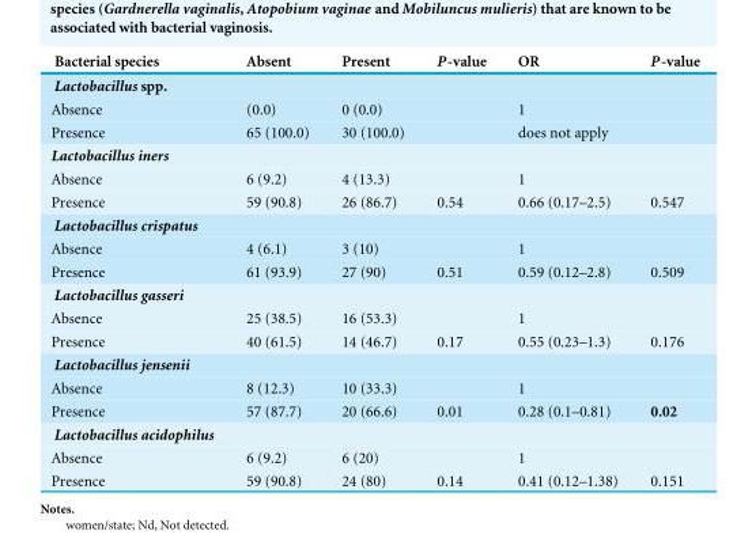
<table><thead><tr><td>Bacterial species</td><td>Absent</td><td>Present</td><td>P-value</td><td>OR</td><td>P-value</td></tr></thead><tbody><tr><td colspan="6">Lactobacillus spp.</td></tr><tr><td>Absence</td><td>(0.0)</td><td>0 (0.0)</td><td></td><td>1</td><td></td></tr><tr><td>Presence</td><td>65 (100.0)</td><td>30 (100.0)</td><td></td><td>does not apply</td><td></td></tr><tr><td colspan="6">Lactobacillus iners</td></tr><tr><td>Absence</td><td>6 (9.2)</td><td>4 (13.3)</td><td></td><td>1</td><td></td></tr><tr><td>Presence</td><td>59 (90.8)</td><td>26 (86.7)</td><td>0.54</td><td>0.66 (0.17–2.5)</td><td>0.547</td></tr><tr><td colspan="6">Lactobacillus crispatus</td></tr><tr><td>Absence</td><td>4 (6.1)</td><td>3 (10)</td><td></td><td>1</td><td></td></tr><tr><td>Presence</td><td>61 (93.9)</td><td>27 (90)</td><td>0.51</td><td>0.59 (0.12–2.8)</td><td>0.509</td></tr><tr><td colspan="6">Lactobacillus gasseri</td></tr><tr><td>Absence</td><td>25 (38.5)</td><td>16 (53.3)</td><td></td><td>1</td><td></td></tr><tr><td>Presence</td><td>40 (61.5)</td><td>14 (46.7)</td><td>0.17</td><td>0.55 (0.23–1.3)</td><td>0.176</td></tr><tr><td colspan="6">Lactobacillus jensenii</td></tr><tr><td>Absence</td><td>8 (12.3)</td><td>10 (33.3)</td><td></td><td>1</td><td></td></tr><tr><td>Presence</td><td>57 (87.7)</td><td>20 (66.6)</td><td>0.01</td><td>0.28 (0.1–0.81)</td><td>0.02</td></tr><tr><td colspan="6">Lactobacillus acidophilus</td></tr><tr><td>Absence</td><td>6 (9.2)</td><td>6 (20)</td><td></td><td>1</td><td></td></tr><tr><td>Presence</td><td>59 (90.8)</td><td>24 (80)</td><td>0.14</td><td>0.41 (0.12–1.38)</td><td>0.151</td></tr></tbody></table>